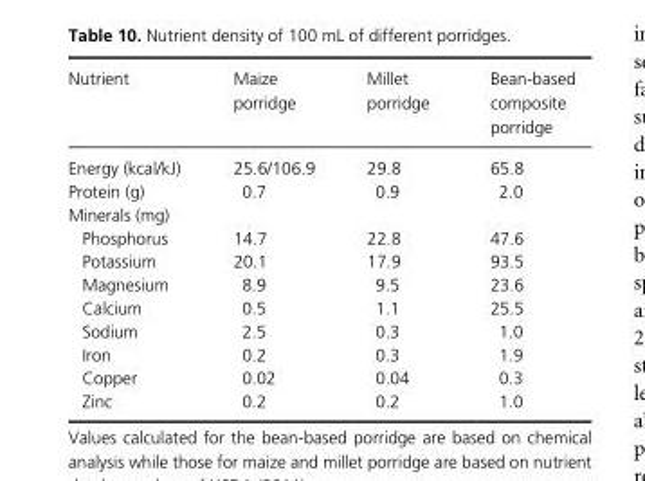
<table><thead><tr><td>Nutrient</td><td>Maize porridge</td><td>Millet porridge</td><td>Bean- based composite porridge</td></tr></thead><tbody><tr><td>Energy (kcal/kJ)</td><td>25.6/106.9</td><td>29.8</td><td>65.8</td></tr><tr><td>Protein (g)</td><td>0.7</td><td>0.9</td><td>2.0</td></tr><tr><td colspan="4">Minerals (mg)</td></tr><tr><td>Phosphorus</td><td>14.7</td><td>22.8</td><td>47.6</td></tr><tr><td>Potassium</td><td>20.1</td><td>17.9</td><td>93.5</td></tr><tr><td>Magnesium</td><td>8.9</td><td>9.5</td><td>23.6</td></tr><tr><td>Calcium</td><td>0.5</td><td>1.1</td><td>25.5</td></tr><tr><td>Sodium</td><td>2.5</td><td>0.3</td><td>1.0</td></tr><tr><td>Iron</td><td>0.2</td><td>0.3</td><td>1.9</td></tr><tr><td>Copper</td><td>0.02</td><td>0.04</td><td>0.3</td></tr><tr><td>Zinc</td><td>0.2</td><td>0.2</td><td>1.0</td></tr></tbody></table>